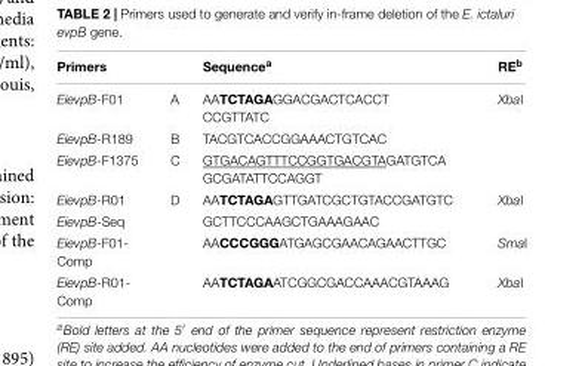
<table><thead><tr><td>Primers</td><td></td><td>Sequence<sup>a</sup></td><td>RE<sup>b</sup></td></tr></thead><tbody><tr><td>EievpB-F01</td><td>A</td><td>AATCTAGAGGACGACTCACCT CCGTTATC</td><td>XbaI</td></tr><tr><td>EievpB-R189</td><td>B</td><td>TACGTCACCGGAAACTGTCAC</td><td></td></tr><tr><td>EievpB-F1375</td><td>C</td><td>GTGACAGTTTCCGGTGACGTAGATGTCA GCGATATTCCAGGT</td><td></td></tr><tr><td>EievpB-R01</td><td>D</td><td>AATCTAGAGTTGATCGCTGTACCGATGTC</td><td>XbaI</td></tr><tr><td>EievpB-Seq</td><td></td><td>GCTTCCCAAGCTGAAAGAAC</td><td></td></tr><tr><td>EievpB-F01- Comp</td><td></td><td>AACCCGGGATGAGCGAACAGAACTTGC</td><td>SmaI</td></tr><tr><td>EievpB-R01- Comp</td><td></td><td>AATCTAGAATCGGCGACCAAACGTAAAG</td><td>XbaI</td></tr></tbody></table>